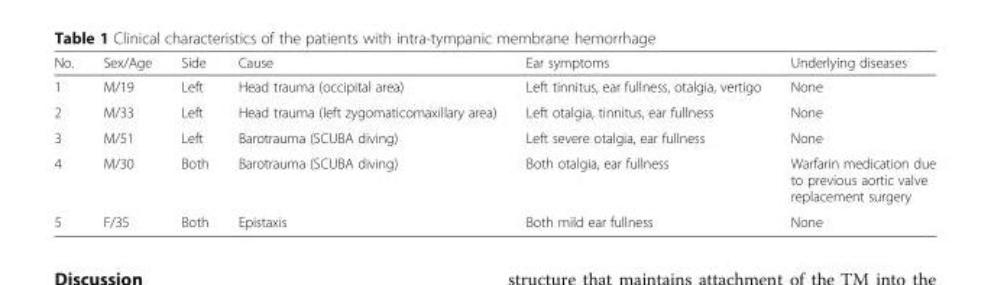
<table><thead><tr><td>No.</td><td>Sex/Age</td><td>Side</td><td>Cause</td><td>Ear symptoms</td><td>Underlying diseases</td></tr></thead><tbody><tr><td>1</td><td>M/19</td><td>Left</td><td>Head trauma (occipital area)</td><td>Left tinnitus, ear fullness, otalgia, vertigo</td><td>None</td></tr><tr><td>2</td><td>M/33</td><td>Left</td><td>Head trauma (left zygomaticomaxillary area)</td><td>Left otalgia, tinnitus, ear fullness</td><td>None</td></tr><tr><td>3</td><td>M/51</td><td>Left</td><td>Barotrauma (SCUBA diving)</td><td>Left severe otalgia, ear fullness</td><td>None</td></tr><tr><td>4</td><td>M/30</td><td>Both</td><td>Barotrauma (SCUBA diving)</td><td>Both otalgia, ear fullness</td><td>Warfarin medication due to previous aortic valve replacement surgery</td></tr><tr><td>5</td><td>F/35</td><td>Both</td><td>Epistaxis</td><td>Both mild ear fullness</td><td>None</td></tr></tbody></table>